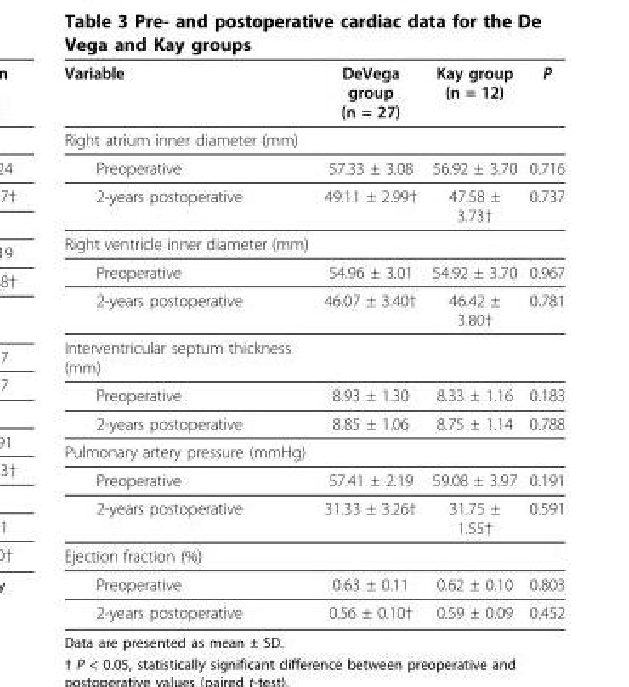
<table><thead><tr><td>Variable</td><td>DeVega group (n = 27)</td><td>Kay group (n = 12)</td><td>P</td></tr></thead><tbody><tr><td colspan="4">Right atrium inner diameter (mm)</td></tr><tr><td>Preoperative</td><td>57.33 ± 3.08</td><td>56.92 ± 3.70</td><td>0.716</td></tr><tr><td>2-years postoperative</td><td>49.11 ± 2.99†</td><td>47.58 ± 3.73†</td><td>0.737</td></tr><tr><td colspan="4">Right ventricle inner diameter (mm)</td></tr><tr><td>Preoperative</td><td>54.96 ± 3.01</td><td>54.92 ± 3.70</td><td>0.967</td></tr><tr><td>2-years postoperative</td><td>46.07 ± 3.40†</td><td>46.42 ± 3.80†</td><td>0.781</td></tr><tr><td colspan="4">Interventricular septum thickness (mm)</td></tr><tr><td>Preoperative</td><td>8.93 ± 1.30</td><td>8.33 ± 1.16</td><td>0.183</td></tr><tr><td>2-years postoperative</td><td>8.85 ± 1.06</td><td>8.75 ± 1.14</td><td>0.788</td></tr><tr><td colspan="4">Pulmonary artery pressure (mmHg)</td></tr><tr><td>Preoperative</td><td>57.41 ± 2.19</td><td>59.08 ± 3.97</td><td>0.191</td></tr><tr><td>2-years postoperative</td><td>31.33 ± 3.26†</td><td>31.75 ± 1.55†</td><td>0.591</td></tr><tr><td colspan="4">Ejection fraction (%)</td></tr><tr><td>Preoperative</td><td>0.63 ± 0.11</td><td>0.62 ± 0.10</td><td>0.803</td></tr><tr><td>2-years postoperative</td><td>0.56 ± 0.10†</td><td>0.59 ± 0.09</td><td>0.452</td></tr></tbody></table>